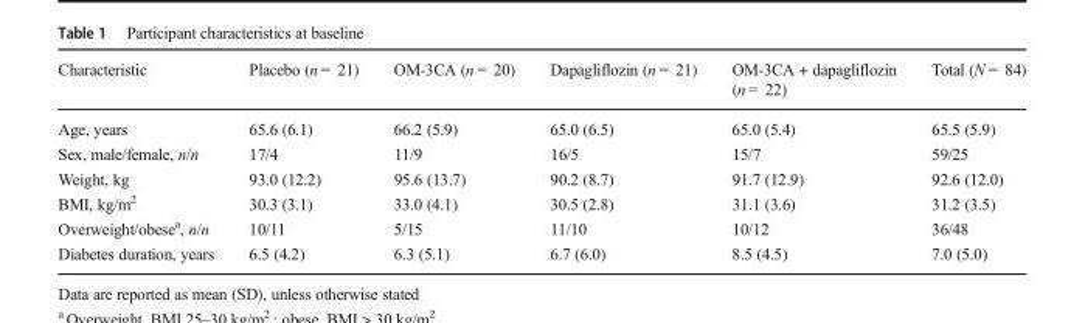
<table><thead><tr><td>Characteristic</td><td>Placebo (n = 21)</td><td>OM-3CA (n = 20)</td><td>Dapagliflozin (n = 21)</td><td>OM-3CA + dapagliflozin (n = 22)</td><td>Total (N = 84)</td></tr></thead><tbody><tr><td>Age, years</td><td>65.6 (6.1)</td><td>66.2 (5.9)</td><td>65.0 (6.5)</td><td>65.0 (5.4)</td><td>65.5 (5.9)</td></tr><tr><td>Sex, male/female, n/n</td><td>17/4</td><td>11/9</td><td>16/5</td><td>15/7</td><td>59/25</td></tr><tr><td>Weight, kg</td><td>93.0 (12.2)</td><td>95.6 (13.7)</td><td>90.2 (8.7)</td><td>91.7 (12.9)</td><td>92.6 (12.0)</td></tr><tr><td>BMI, kg/m<sup>2</sup></td><td>30.3 (3.1)</td><td>33.0 (4.1)</td><td>30.5 (2.8)</td><td>31.1 (3.6)</td><td>31.2 (3.5)</td></tr><tr><td>Overweight/obese<sup>a</sup>, n/n</td><td>10/11</td><td>5/15</td><td>11/10</td><td>10/12</td><td>36/48</td></tr><tr><td>Diabetes duration, years</td><td>6.5 (4.2)</td><td>6.3 (5.1)</td><td>6.7 (6.0)</td><td>8.5 (4.5)</td><td>7.0 (5.0)</td></tr></tbody></table>